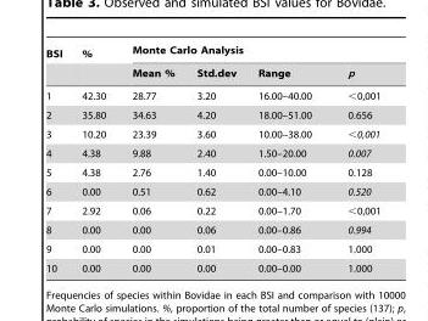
<table><thead><tr><td rowspan="2">BSI</td><td rowspan="2">%</td><td colspan="4">Monte Carlo Analysis</td></tr><tr><td>Mean %</td><td>Std.dev</td><td>Range</td><td>p</td></tr></thead><tbody><tr><td>1</td><td>42.30</td><td>28.77</td><td>3.20</td><td>16.00–40.00</td><td>&lt;0,001</td></tr><tr><td>2</td><td>35.80</td><td>34.63</td><td>4.20</td><td>18.00–51.00</td><td>0.656</td></tr><tr><td>3</td><td>10.20</td><td>23.39</td><td>3.60</td><td>10.00–38.00</td><td>&lt;0,001</td></tr><tr><td>4</td><td>4.38</td><td>9.88</td><td>2.40</td><td>1.50–20.00</td><td>0.007</td></tr><tr><td>5</td><td>4.38</td><td>2.76</td><td>1.40</td><td>0.00–10.00</td><td>0.128</td></tr><tr><td>6</td><td>0.00</td><td>0.51</td><td>0.62</td><td>0.00–4.10</td><td>0.520</td></tr><tr><td>7</td><td>2.92</td><td>0.06</td><td>0.22</td><td>0.00–1.70</td><td>&lt;0,001</td></tr><tr><td>8</td><td>0.00</td><td>0.00</td><td>0.06</td><td>0.00–0.86</td><td>0.994</td></tr><tr><td>9</td><td>0.00</td><td>0.00</td><td>0.01</td><td>0.00–0.83</td><td>1.000</td></tr><tr><td>10</td><td>0.00</td><td>0.00</td><td>0.00</td><td>0.00–0.00</td><td>1.000</td></tr></tbody></table>